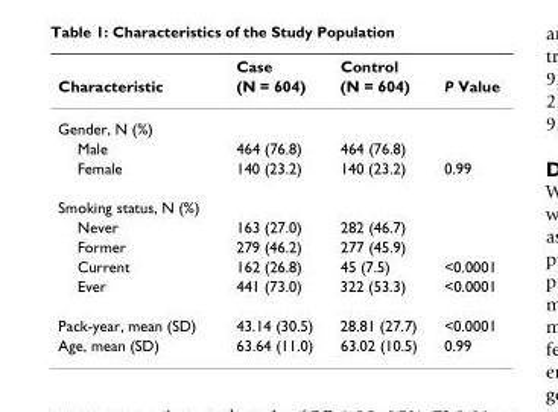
<table><thead><tr><td rowspan="2">Characteristic</td><td rowspan="2">Case (N = 604)</td><td rowspan="2">Control (N = 604)</td><td rowspan="2">P Value</td></tr><tr></tr></thead><tbody><tr><td colspan="4">Gender, N (%)</td></tr><tr><td>Male</td><td>464 (76.8)</td><td>464 (76.8)</td><td></td></tr><tr><td>Female</td><td>140 (23.2)</td><td>140 (23.2)</td><td>0.99</td></tr><tr><td colspan="4">Smoking status, N (%)</td></tr><tr><td>Never</td><td>163 (27.0)</td><td>282 (46.7)</td><td></td></tr><tr><td>Former</td><td>279 (46.2)</td><td>277 (45.9)</td><td></td></tr><tr><td>Current</td><td>162 (26.8)</td><td>45 (7.5)</td><td>&lt;0.0001</td></tr><tr><td>Ever</td><td>441 (73.0)</td><td>322 (53.3)</td><td>&lt;0.0001</td></tr><tr><td>Pack-year, mean (SD)</td><td>43.14 (30.5)</td><td>28.81 (27.7)</td><td>&lt;0.0001</td></tr><tr><td>Age, mean (SD)</td><td>63.64 (11.0)</td><td>63.02 (10.5)</td><td>0.99</td></tr></tbody></table>